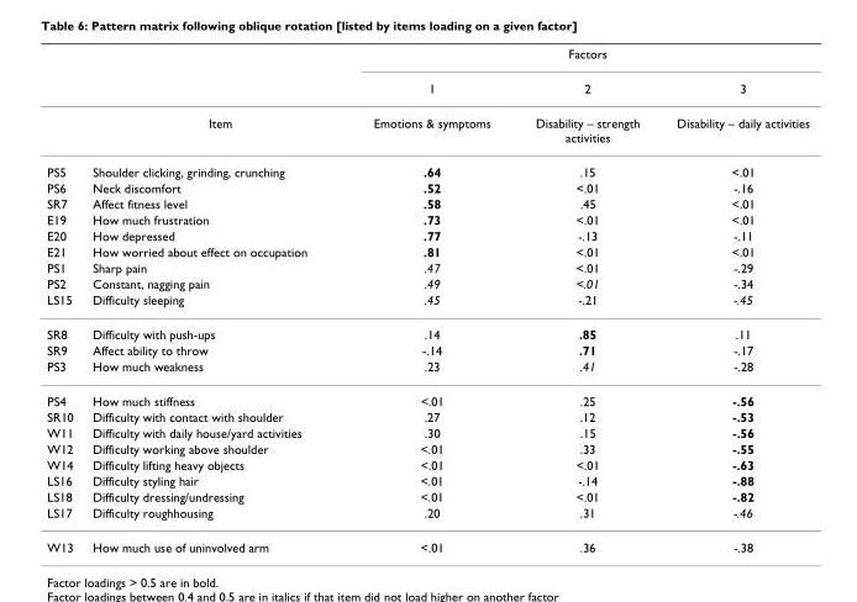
<table><thead><tr><td rowspan="2"></td><td rowspan="2"></td><td colspan="3">Factors</td></tr><tr><td>1</td><td>2</td><td>3</td></tr></thead><tbody><tr><td></td><td>Item</td><td>Emotions &amp; symptoms</td><td>Disability – strength activities</td><td>Disability – daily activities</td></tr><tr><td>PS5</td><td>Shoulder clicking, grinding, crunching</td><td>.64</td><td>.15</td><td>&lt;.01</td></tr><tr><td>PS6</td><td>Neck discomfort</td><td>.52</td><td>&lt;.01</td><td>-.16</td></tr><tr><td>SR7</td><td>Affect fitness level</td><td>.58</td><td>.45</td><td>&lt;.01</td></tr><tr><td>E19</td><td>How much frustration</td><td>.73</td><td>&lt;.01</td><td>&lt;.01</td></tr><tr><td>E20</td><td>How depressed</td><td>.77</td><td>-.13</td><td>-.11</td></tr><tr><td>E21</td><td>How worried about effect on occupation</td><td>.81</td><td>&lt;.01</td><td>&lt;.01</td></tr><tr><td>PS1</td><td>Sharp pain</td><td>.47</td><td>&lt;.01</td><td>-.29</td></tr><tr><td>PS2</td><td>Constant, nagging pain</td><td>.49</td><td>&lt;.01</td><td>-.34</td></tr><tr><td>LS15</td><td>Difficulty sleeping</td><td>.45</td><td>-.21</td><td>-.45</td></tr><tr><td>SR8</td><td>Difficulty with push-ups</td><td>.14</td><td>.85</td><td>.11</td></tr><tr><td>SR9</td><td>Affect ability to throw</td><td>-.14</td><td>.71</td><td>-.17</td></tr><tr><td>PS3</td><td>How much weakness</td><td>.23</td><td>.41</td><td>-.28</td></tr><tr><td>PS4</td><td>How much stiffness</td><td>&lt;.01</td><td>.25</td><td>-.56</td></tr><tr><td>SR10</td><td>Difficulty with contact with shoulder</td><td>.27</td><td>.12</td><td>-.53</td></tr><tr><td>W11</td><td>Difficulty with daily house/yard activities</td><td>.30</td><td>.15</td><td>-.56</td></tr><tr><td>W12</td><td>Difficulty working above shoulder</td><td>&lt;.01</td><td>.33</td><td>-.55</td></tr><tr><td>W14</td><td>Difficulty lifting heavy objects</td><td>&lt;.01</td><td>&lt;.01</td><td>-.63</td></tr><tr><td>LS16</td><td>Difficulty styling hair</td><td>&lt;.01</td><td>-.14</td><td>-.88</td></tr><tr><td>LS18</td><td>Difficulty dressing/undressing</td><td>&lt;.01</td><td>&lt;.01</td><td>-.82</td></tr><tr><td>LS17</td><td>Difficulty roughhousing</td><td>.20</td><td>.31</td><td>-.46</td></tr><tr><td>W13</td><td>How much use of uninvolved arm</td><td>&lt;.01</td><td>.36</td><td>-.38</td></tr></tbody></table>